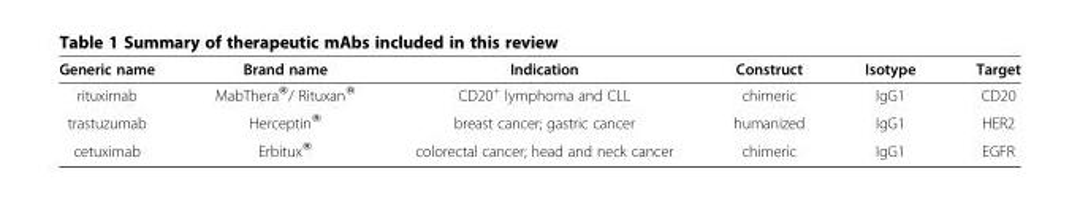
<table><thead><tr><td>Generic name</td><td>Brand name</td><td>Indication</td><td>Construct</td><td>Isotype</td><td>Target</td></tr></thead><tbody><tr><td>rituximab</td><td>MabThera®/ Rituxan®</td><td>CD20<sup>+</sup> lymphoma and CLL</td><td>chimeric</td><td>IgG1</td><td>CD20</td></tr><tr><td>trastuzumab</td><td>Herceptin®</td><td>breast cancer; gastric cancer</td><td>humanized</td><td>IgG1</td><td>HER2</td></tr><tr><td>cetuximab</td><td>Erbitux®</td><td>colorectal cancer; head and neck cancer</td><td>chimeric</td><td>IgG1</td><td>EGFR</td></tr></tbody></table>